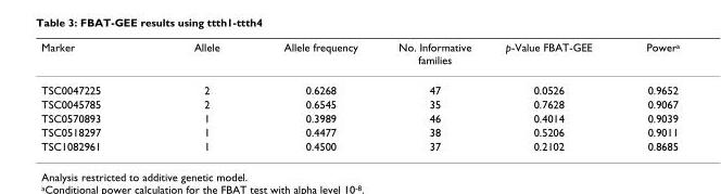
<table><thead><tr><td>Marker</td><td>Allele</td><td>Allele frequency</td><td>No. Informative families</td><td>p-Value FBAT-GEE</td><td>Powera</td></tr></thead><tbody><tr><td>TSC0047225</td><td>2</td><td>0.6268</td><td>47</td><td>0.0526</td><td>0.9652</td></tr><tr><td>TSC0045785</td><td>2</td><td>0.6545</td><td>35</td><td>0.7628</td><td>0.9067</td></tr><tr><td>TSC0570893</td><td>1</td><td>0.3989</td><td>46</td><td>0.4014</td><td>0.9039</td></tr><tr><td>TSC0518297</td><td>1</td><td>0.4477</td><td>38</td><td>0.5206</td><td>0.9011</td></tr><tr><td>TSC1082961</td><td>1</td><td>0.4500</td><td>37</td><td>0.2102</td><td>0.8685</td></tr></tbody></table>